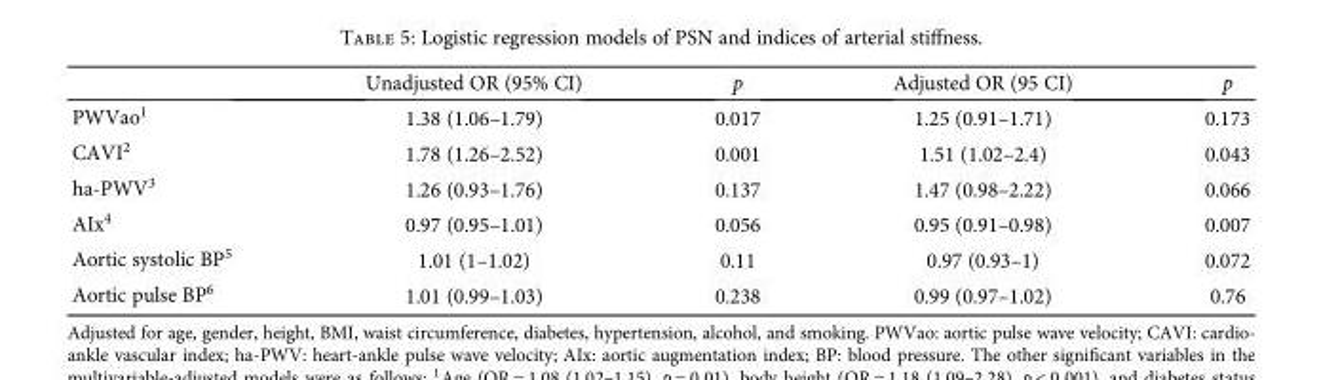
<table><thead><tr><td></td><td>Unadjusted OR (95% CI)</td><td>p</td><td>Adjusted OR (95 CI)</td><td>p</td></tr></thead><tbody><tr><td>PWVao<sup>1</sup></td><td>1.38 (1.06–1.79)</td><td>0.017</td><td>1.25 (0.91–1.71)</td><td>0.173</td></tr><tr><td>CAVI<sup>2</sup></td><td>1.78 (1.26–2.52)</td><td>0.001</td><td>1.51 (1.02–2.4)</td><td>0.043</td></tr><tr><td>ha-PWV<sup>3</sup></td><td>1.26 (0.93–1.76)</td><td>0.137</td><td>1.47 (0.98–2.22)</td><td>0.066</td></tr><tr><td>AIx<sup>4</sup></td><td>0.97 (0.95–1.01)</td><td>0.056</td><td>0.95 (0.91–0.98)</td><td>0.007</td></tr><tr><td>Aortic systolic BP<sup>5</sup></td><td>1.01 (1–1.02)</td><td>0.11</td><td>0.97 (0.93–1)</td><td>0.072</td></tr><tr><td>Aortic pulse BP<sup>6</sup></td><td>1.01 (0.99–1.03)</td><td>0.238</td><td>0.99 (0.97–1.02)</td><td>0.76</td></tr></tbody></table>